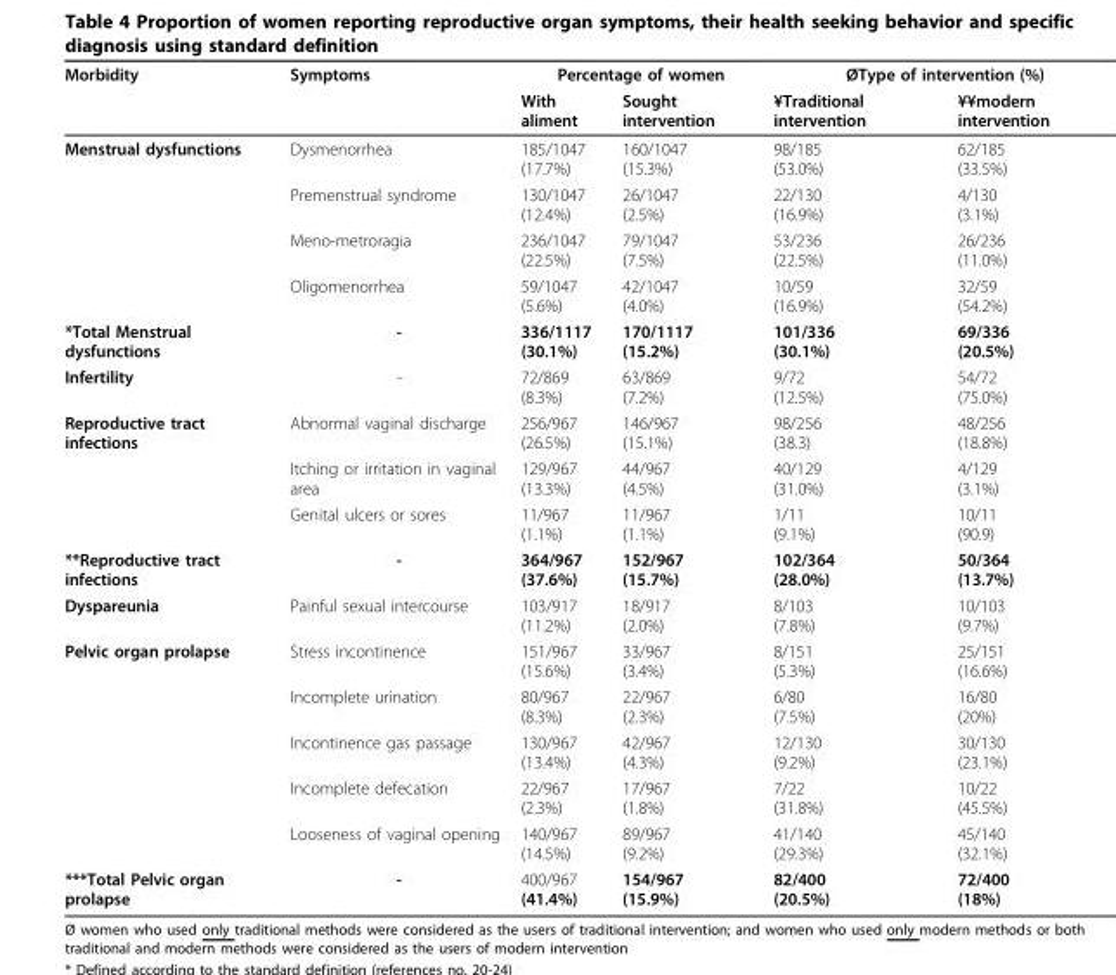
<table><thead><tr><td rowspan="2">Morbidity</td><td rowspan="2">Symptoms</td><td colspan="2">Percentage of women</td><td colspan="2">ØType of intervention (%)</td></tr><tr><td>With aliment</td><td>Sought intervention</td><td>¥Traditional intervention</td><td>¥¥modern intervention</td></tr></thead><tbody><tr><td rowspan="4">Menstrual dysfunctions</td><td>Dysmenorrhea</td><td>185/1047 (17.7%)</td><td>160/1047 (15.3%)</td><td>98/185 (53.0%)</td><td>62/185 (33.5%)</td></tr><tr><td>Premenstrual syndrome</td><td>130/1047 (12.4%)</td><td>26/1047 (2.5%)</td><td>22/130 (16.9%)</td><td>4/130 (3.1%)</td></tr><tr><td>Meno-metroragia</td><td>236/1047 (22.5%)</td><td>79/1047 (7.5%)</td><td>53/236 (22.5%)</td><td>26/236 (11.0%)</td></tr><tr><td>Oligomenorrhea</td><td>59/1047 (5.6%)</td><td>42/1047 (4.0%)</td><td>10/59 (16.9%)</td><td>32/59 (54.2%)</td></tr><tr><td>*Total Menstrual dysfunctions</td><td>-</td><td>336/1117 (30.1%)</td><td>170/1117 (15.2%)</td><td>101/336 (30.1%)</td><td>69/336 (20.5%)</td></tr><tr><td>Infertility</td><td>-</td><td>72/869 (8.3%)</td><td>63/869 (7.2%)</td><td>9/72 (12.5%)</td><td>54/72 (75.0%)</td></tr><tr><td rowspan="3">Reproductive tract infections</td><td>Abnormal vaginal discharge</td><td>256/967 (26.5%)</td><td>146/967 (15.1%)</td><td>98/256 (38.3)</td><td>48/256 (18.8%)</td></tr><tr><td>Itching or irritation in vaginal area</td><td>129/967 (13.3%)</td><td>44/967 (4.5%)</td><td>40/129 (31.0%)</td><td>4/129 (3.1%)</td></tr><tr><td>Genital ulcers or sores</td><td>11/967 (1.1%)</td><td>11/967 (1.1%)</td><td>1/11 (9.1%)</td><td>10/11 (90.9)</td></tr><tr><td>**Reproductive tract infections</td><td>-</td><td>364/967 (37.6%)</td><td>152/967 (15.7%)</td><td>102/364 (28.0%)</td><td>50/364 (13.7%)</td></tr><tr><td>Dyspareunia</td><td>Painful sexual intercourse</td><td>103/917 (11.2%)</td><td>18/917 (2.0%)</td><td>8/103 (7.8%)</td><td>10/103 (9.7%)</td></tr><tr><td rowspan="5">Pelvic organ prolapse</td><td>Stress incontinence</td><td>151/967 (15.6%)</td><td>33/967 (3.4%)</td><td>8/151 (5.3%)</td><td>25/151 (16.6%)</td></tr><tr><td>Incomplete urination</td><td>80/967 (8.3%)</td><td>22/967 (2.3%)</td><td>6/80 (7.5%)</td><td>16/80 (20%)</td></tr><tr><td>Incontinence gas passage</td><td>130/967 (13.4%)</td><td>42/967 (4.3%)</td><td>12/130 (9.2%)</td><td>30/130 (23.1%)</td></tr><tr><td>Incomplete defecation</td><td>22/967 (2.3%)</td><td>17/967 (1.8%)</td><td>7/22 (31.8%)</td><td>10/22 (45.5%)</td></tr><tr><td>Looseness of vaginal opening</td><td>140/967 (14.5%)</td><td>89/967 (9.2%)</td><td>41/140 (29.3%)</td><td>45/140 (32.1%)</td></tr><tr><td>***Total Pelvic organ prolapse</td><td>-</td><td>400/967 (41.4%)</td><td>154/967 (15.9%)</td><td>82/400 (20.5%)</td><td>72/400 (18%)</td></tr></tbody></table>